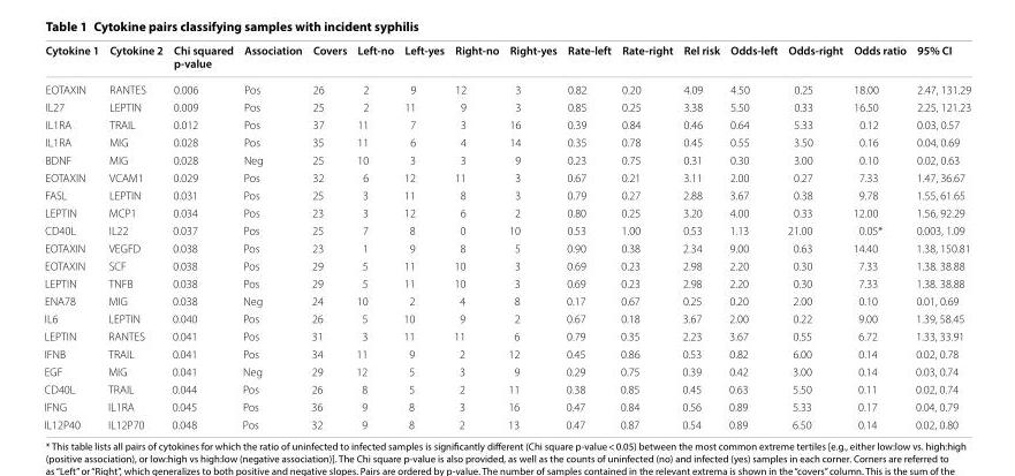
<table><thead><tr><td>Cytokine 1</td><td>Cytokine 2</td><td>Chi squared p-value</td><td>Association</td><td>Covers</td><td>Left-no</td><td>Left-yes</td><td>Right-no</td><td>Right-yes</td><td>Rate-left</td><td>Rate-right</td><td>Rel risk</td><td>Odds-left</td><td>Odds-right</td><td>Odds ratio</td><td>95% CI</td></tr></thead><tbody><tr><td>EOTAXIN</td><td>RANTES</td><td>0.006</td><td>Pos</td><td>26</td><td>2</td><td>9</td><td>12</td><td>3</td><td>0.82</td><td>0.20</td><td>4.09</td><td>4.50</td><td>0.25</td><td>18.00</td><td>2.47, 131.29</td></tr><tr><td>IL27</td><td>LEPTIN</td><td>0.009</td><td>Pos</td><td>25</td><td>2</td><td>11</td><td>9</td><td>3</td><td>0.85</td><td>0.25</td><td>3.38</td><td>5.50</td><td>0.33</td><td>16.50</td><td>2.25, 121.23</td></tr><tr><td>IL1RA</td><td>TRAIL</td><td>0.012</td><td>Pos</td><td>37</td><td>11</td><td>7</td><td>3</td><td>16</td><td>0.39</td><td>0.84</td><td>0.46</td><td>0.64</td><td>5.33</td><td>0.12</td><td>0.03, 0.57</td></tr><tr><td>IL1RA</td><td>MIG</td><td>0.028</td><td>Pos</td><td>35</td><td>11</td><td>6</td><td>4</td><td>14</td><td>0.35</td><td>0.78</td><td>0.45</td><td>0.55</td><td>3.50</td><td>0.16</td><td>0.04, 0.69</td></tr><tr><td>BDNF</td><td>MIG</td><td>0.028</td><td>Neg</td><td>25</td><td>10</td><td>3</td><td>3</td><td>9</td><td>0.23</td><td>0.75</td><td>0.31</td><td>0.30</td><td>3.00</td><td>0.10</td><td>0.02, 0.63</td></tr><tr><td>EOTAXIN</td><td>VCAM1</td><td>0.029</td><td>Pos</td><td>32</td><td>6</td><td>12</td><td>11</td><td>3</td><td>0.67</td><td>0.21</td><td>3.11</td><td>2.00</td><td>0.27</td><td>7.33</td><td>1.47, 36.67</td></tr><tr><td>FASL</td><td>LEPTIN</td><td>0.031</td><td>Pos</td><td>25</td><td>3</td><td>11</td><td>8</td><td>3</td><td>0.79</td><td>0.27</td><td>2.88</td><td>3.67</td><td>0.38</td><td>9.78</td><td>1.55, 61.65</td></tr><tr><td>LEPTIN</td><td>MCP1</td><td>0.034</td><td>Pos</td><td>23</td><td>3</td><td>12</td><td>6</td><td>2</td><td>0.80</td><td>0.25</td><td>3.20</td><td>4.00</td><td>0.33</td><td>12.00</td><td>1.56, 92.29</td></tr><tr><td>CD40L</td><td>IL22</td><td>0.037</td><td>Pos</td><td>25</td><td>7</td><td>8</td><td>0</td><td>10</td><td>0.53</td><td>1.00</td><td>0.53</td><td>1.13</td><td>21.00</td><td>0.05*</td><td>0.003, 1.09</td></tr><tr><td>EOTAXIN</td><td>VEGFD</td><td>0.038</td><td>Pos</td><td>23</td><td>1</td><td>9</td><td>8</td><td>5</td><td>0.90</td><td>0.38</td><td>2.34</td><td>9.00</td><td>0.63</td><td>14.40</td><td>1.38, 150.81</td></tr><tr><td>EOTAXIN</td><td>SCF</td><td>0.038</td><td>Pos</td><td>29</td><td>5</td><td>11</td><td>10</td><td>3</td><td>0.69</td><td>0.23</td><td>2.98</td><td>2.20</td><td>0.30</td><td>7.33</td><td>1.38. 38.88</td></tr><tr><td>LEPTIN</td><td>TNFB</td><td>0.038</td><td>Pos</td><td>29</td><td>5</td><td>11</td><td>10</td><td>3</td><td>0.69</td><td>0.23</td><td>2.98</td><td>2.20</td><td>0.30</td><td>7.33</td><td>1.38. 38.88</td></tr><tr><td>ENA78</td><td>MIG</td><td>0.038</td><td>Neg</td><td>24</td><td>10</td><td>2</td><td>4</td><td>8</td><td>0.17</td><td>0.67</td><td>0.25</td><td>0.20</td><td>2.00</td><td>0.10</td><td>0.01, 0.69</td></tr><tr><td>IL6</td><td>LEPTIN</td><td>0.040</td><td>Pos</td><td>26</td><td>5</td><td>10</td><td>9</td><td>2</td><td>0.67</td><td>0.18</td><td>3.67</td><td>2.00</td><td>0.22</td><td>9.00</td><td>1.39, 58.45</td></tr><tr><td>LEPTIN</td><td>RANTES</td><td>0.041</td><td>Pos</td><td>31</td><td>3</td><td>11</td><td>11</td><td>6</td><td>0.79</td><td>0.35</td><td>2.23</td><td>3.67</td><td>0.55</td><td>6.72</td><td>1.33, 33.91</td></tr><tr><td>IFNB</td><td>TRAIL</td><td>0.041</td><td>Pos</td><td>34</td><td>11</td><td>9</td><td>2</td><td>12</td><td>0.45</td><td>0.86</td><td>0.53</td><td>0.82</td><td>6.00</td><td>0.14</td><td>0.02, 0.78</td></tr><tr><td>EGF</td><td>MIG</td><td>0.041</td><td>Neg</td><td>29</td><td>12</td><td>5</td><td>3</td><td>9</td><td>0.29</td><td>0.75</td><td>0.39</td><td>0.42</td><td>3.00</td><td>0.14</td><td>0.03, 0.74</td></tr><tr><td>CD40L</td><td>TRAIL</td><td>0.044</td><td>Pos</td><td>26</td><td>8</td><td>5</td><td>2</td><td>11</td><td>0.38</td><td>0.85</td><td>0.45</td><td>0.63</td><td>5.50</td><td>0.11</td><td>0.02, 0.74</td></tr><tr><td>IFNG</td><td>IL1RA</td><td>0.045</td><td>Pos</td><td>36</td><td>9</td><td>8</td><td>3</td><td>16</td><td>0.47</td><td>0.84</td><td>0.56</td><td>0.89</td><td>5.33</td><td>0.17</td><td>0.04, 0.79</td></tr><tr><td>IL12P40</td><td>IL12P70</td><td>0.048</td><td>Pos</td><td>32</td><td>9</td><td>8</td><td>2</td><td>13</td><td>0.47</td><td>0.87</td><td>0.54</td><td>0.89</td><td>6.50</td><td>0.14</td><td>0.02, 0.80</td></tr></tbody></table>